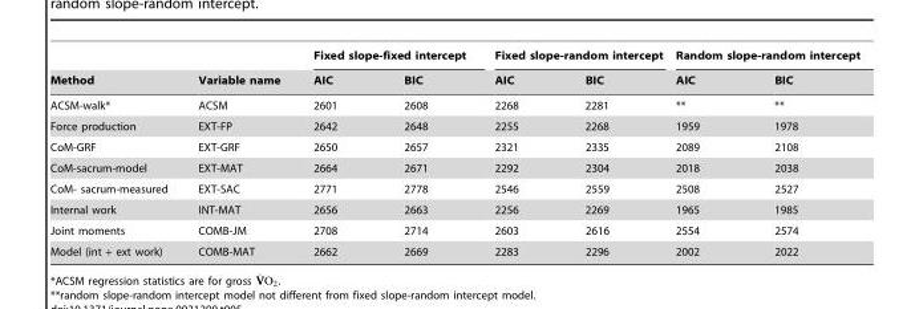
<table><thead><tr><td rowspan="2">Method</td><td rowspan="2">Variable name</td><td colspan="2">Fixed slope-fixed intercept</td><td colspan="2">Fixed slope-random intercept</td><td colspan="2">Random slope-random intercept</td></tr><tr><td>AIC</td><td>BIC</td><td>AIC</td><td>BIC</td><td>AIC</td><td>BIC</td></tr></thead><tbody><tr><td>ACSM-walk*</td><td>ACSM</td><td>2601</td><td>2608</td><td>2268</td><td>2281</td><td>**</td><td>**</td></tr><tr><td>Force production</td><td>EXT-FP</td><td>2642</td><td>2648</td><td>2255</td><td>2268</td><td>1959</td><td>1978</td></tr><tr><td>CoM-GRF</td><td>EXT-GRF</td><td>2650</td><td>2657</td><td>2321</td><td>2335</td><td>2089</td><td>2108</td></tr><tr><td>CoM-sacrum-model</td><td>EXT-MAT</td><td>2664</td><td>2671</td><td>2292</td><td>2304</td><td>2018</td><td>2038</td></tr><tr><td>CoM- sacrum-measured</td><td>EXT-SAC</td><td>2771</td><td>2778</td><td>2546</td><td>2559</td><td>2508</td><td>2527</td></tr><tr><td>Internal work</td><td>INT-MAT</td><td>2656</td><td>2663</td><td>2256</td><td>2269</td><td>1965</td><td>1985</td></tr><tr><td>Joint moments</td><td>COMB-JM</td><td>2708</td><td>2714</td><td>2603</td><td>2616</td><td>2554</td><td>2574</td></tr><tr><td>Model (int + ext work)</td><td>COMB-MAT</td><td>2662</td><td>2669</td><td>2283</td><td>2296</td><td>2002</td><td>2022</td></tr></tbody></table>